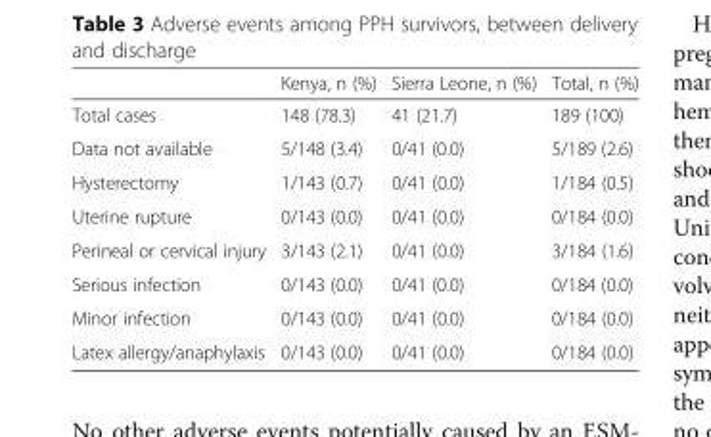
<table><thead><tr><td></td><td>Kenya, n (%)</td><td>Sierra Leone, n (%)</td><td>Total, n (%)</td></tr></thead><tbody><tr><td>Total cases</td><td>148 (78.3)</td><td>41 (21.7)</td><td>189 (100)</td></tr><tr><td>Data not available</td><td>5/148 (3.4)</td><td>0/41 (0.0)</td><td>5/189 (2.6)</td></tr><tr><td>Hysterectomy</td><td>1/143 (0.7)</td><td>0/41 (0.0)</td><td>1/184 (0.5)</td></tr><tr><td>Uterine rupture</td><td>0/143 (0.0)</td><td>0/41 (0.0)</td><td>0/184 (0.0)</td></tr><tr><td>Perineal or cervical injury</td><td>3/143 (2.1)</td><td>0/41 (0.0)</td><td>3/184 (1.6)</td></tr><tr><td>Serious infection</td><td>0/143 (0.0)</td><td>0/41 (0.0)</td><td>0/184 (0.0)</td></tr><tr><td>Minor infection</td><td>0/143 (0.0)</td><td>0/41 (0.0)</td><td>0/184 (0.0)</td></tr><tr><td>Latex allergy/anaphylaxis</td><td>0/143 (0.0)</td><td>0/41 (0.0)</td><td>0/184 (0.0)</td></tr></tbody></table>